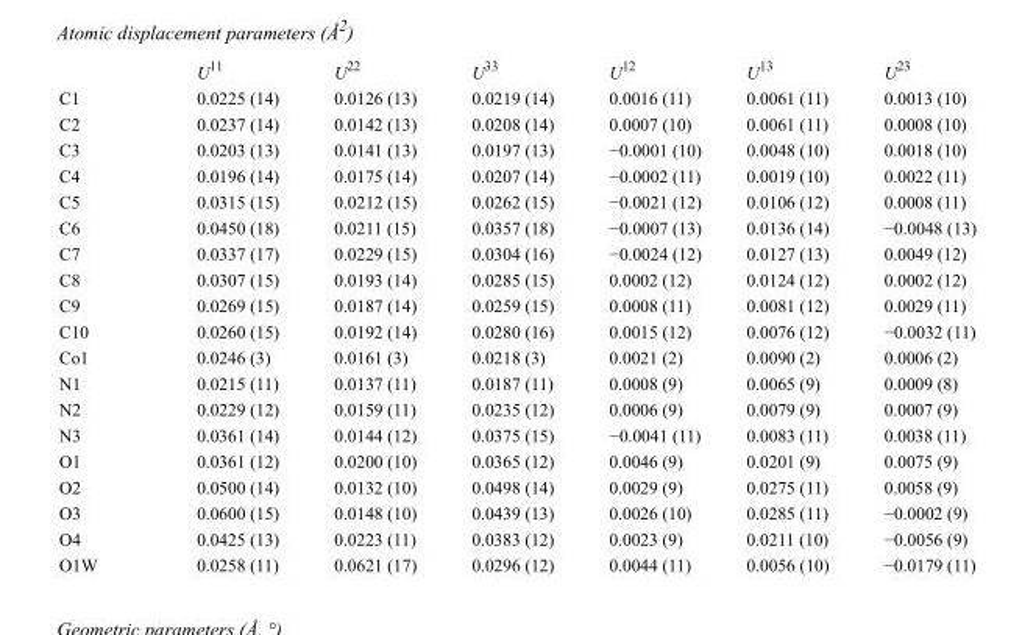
<table><thead><tr><td></td><td>U<sup>11</sup></td><td>U<sup>22</sup></td><td>U<sup>33</sup></td><td>U<sup>12</sup></td><td>U<sup>13</sup></td><td>U<sup>23</sup></td></tr></thead><tbody><tr><td>C1</td><td>0.0225 (14)</td><td>0.0126 (13)</td><td>0.0219 (14)</td><td>0.0016 (11)</td><td>0.0061 (11)</td><td>0.0013 (10)</td></tr><tr><td>C2</td><td>0.0237 (14)</td><td>0.0142 (13)</td><td>0.0208 (14)</td><td>0.0007 (10)</td><td>0.0061 (11)</td><td>0.0008 (10)</td></tr><tr><td>C3</td><td>0.0203 (13)</td><td>0.0141 (13)</td><td>0.0197 (13)</td><td>−0.0001 (10)</td><td>0.0048 (10)</td><td>0.0018 (10)</td></tr><tr><td>C4</td><td>0.0196 (14)</td><td>0.0175 (14)</td><td>0.0207 (14)</td><td>−0.0002 (11)</td><td>0.0019 (10)</td><td>0.0022 (11)</td></tr><tr><td>C5</td><td>0.0315 (15)</td><td>0.0212 (15)</td><td>0.0262 (15)</td><td>−0.0021 (12)</td><td>0.0106 (12)</td><td>0.0008 (11)</td></tr><tr><td>C6</td><td>0.0450 (18)</td><td>0.0211 (15)</td><td>0.0357 (18)</td><td>−0.0007 (13)</td><td>0.0136 (14)</td><td>−0.0048 (13)</td></tr><tr><td>C7</td><td>0.0337 (17)</td><td>0.0229 (15)</td><td>0.0304 (16)</td><td>−0.0024 (12)</td><td>0.0127 (13)</td><td>0.0049 (12)</td></tr><tr><td>C8</td><td>0.0307 (15)</td><td>0.0193 (14)</td><td>0.0285 (15)</td><td>0.0002 (12)</td><td>0.0124 (12)</td><td>0.0002 (12)</td></tr><tr><td>C9</td><td>0.0269 (15)</td><td>0.0187 (14)</td><td>0.0259 (15)</td><td>0.0008 (11)</td><td>0.0081 (12)</td><td>0.0029 (11)</td></tr><tr><td>C10</td><td>0.0260 (15)</td><td>0.0192 (14)</td><td>0.0280 (16)</td><td>0.0015 (12)</td><td>0.0076 (12)</td><td>−0.0032 (11)</td></tr><tr><td>Co1</td><td>0.0246 (3)</td><td>0.0161 (3)</td><td>0.0218 (3)</td><td>0.0021 (2)</td><td>0.0090 (2)</td><td>0.0006 (2)</td></tr><tr><td>N1</td><td>0.0215 (11)</td><td>0.0137 (11)</td><td>0.0187 (11)</td><td>0.0008 (9)</td><td>0.0065 (9)</td><td>0.0009 (8)</td></tr><tr><td>N2</td><td>0.0229 (12)</td><td>0.0159 (11)</td><td>0.0235 (12)</td><td>0.0006 (9)</td><td>0.0079 (9)</td><td>0.0007 (9)</td></tr><tr><td>N3</td><td>0.0361 (14)</td><td>0.0144 (12)</td><td>0.0375 (15)</td><td>−0.0041 (11)</td><td>0.0083 (11)</td><td>0.0038 (11)</td></tr><tr><td>O1</td><td>0.0361 (12)</td><td>0.0200 (10)</td><td>0.0365 (12)</td><td>0.0046 (9)</td><td>0.0201 (9)</td><td>0.0075 (9)</td></tr><tr><td>O2</td><td>0.0500 (14)</td><td>0.0132 (10)</td><td>0.0498 (14)</td><td>0.0029 (9)</td><td>0.0275 (11)</td><td>0.0058 (9)</td></tr><tr><td>O3</td><td>0.0600 (15)</td><td>0.0148 (10)</td><td>0.0439 (13)</td><td>0.0026 (10)</td><td>0.0285 (11)</td><td>−0.0002 (9)</td></tr><tr><td>O4</td><td>0.0425 (13)</td><td>0.0223 (11)</td><td>0.0383 (12)</td><td>0.0023 (9)</td><td>0.0211 (10)</td><td>−0.0056 (9)</td></tr><tr><td>O1W</td><td>0.0258 (11)</td><td>0.0621 (17)</td><td>0.0296 (12)</td><td>0.0044 (11)</td><td>0.0056 (10)</td><td>−0.0179 (11)</td></tr></tbody></table>